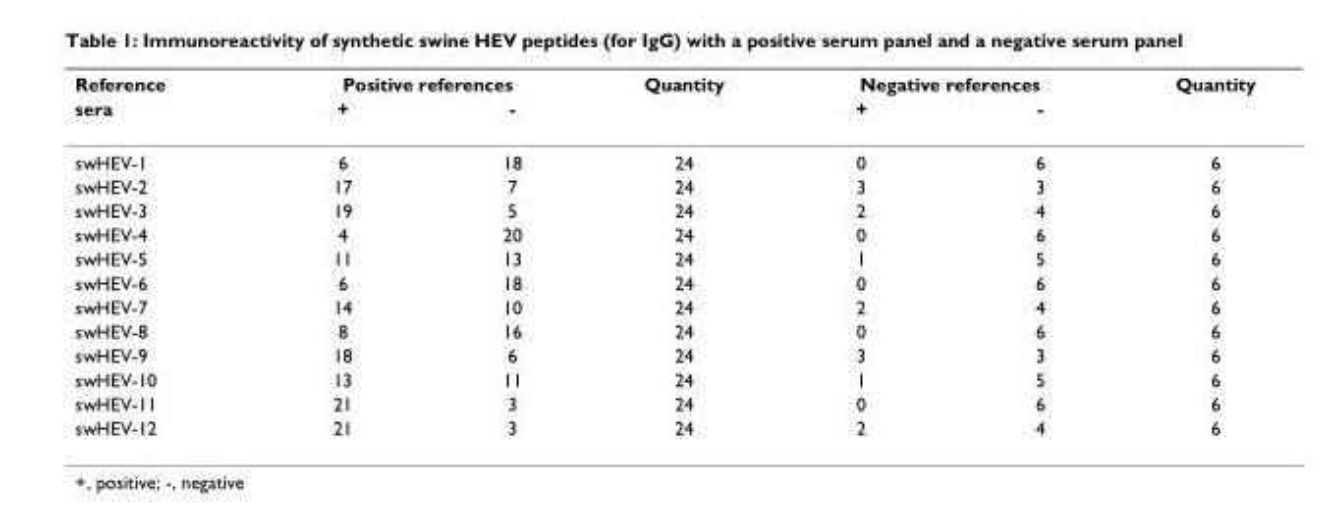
<table><thead><tr><td rowspan="2">Reference sera</td><td colspan="2">Positive references</td><td rowspan="2">Quantity</td><td colspan="2">Negative references</td><td rowspan="2">Quantity</td></tr><tr><td>+</td><td>-</td><td>+</td><td>-</td></tr></thead><tbody><tr><td>swHEV-1</td><td>6</td><td>18</td><td>24</td><td>0</td><td>6</td><td>6</td></tr><tr><td>swHEV-2</td><td>17</td><td>7</td><td>24</td><td>3</td><td>3</td><td>6</td></tr><tr><td>swHEV-3</td><td>19</td><td>5</td><td>24</td><td>2</td><td>4</td><td>6</td></tr><tr><td>swHEV-4</td><td>4</td><td>20</td><td>24</td><td>0</td><td>6</td><td>6</td></tr><tr><td>swHEV-5</td><td>11</td><td>13</td><td>24</td><td>1</td><td>5</td><td>6</td></tr><tr><td>swHEV-6</td><td>6</td><td>18</td><td>24</td><td>0</td><td>6</td><td>6</td></tr><tr><td>swHEV-7</td><td>14</td><td>10</td><td>24</td><td>2</td><td>4</td><td>6</td></tr><tr><td>swHEV-8</td><td>8</td><td>16</td><td>24</td><td>0</td><td>6</td><td>6</td></tr><tr><td>swHEV-9</td><td>18</td><td>6</td><td>24</td><td>3</td><td>3</td><td>6</td></tr><tr><td>swHEV-10</td><td>13</td><td>11</td><td>24</td><td>1</td><td>5</td><td>6</td></tr><tr><td>swHEV-11</td><td>21</td><td>3</td><td>24</td><td>0</td><td>6</td><td>6</td></tr><tr><td>swHEV-12</td><td>21</td><td>3</td><td>24</td><td>2</td><td>4</td><td>6</td></tr></tbody></table>